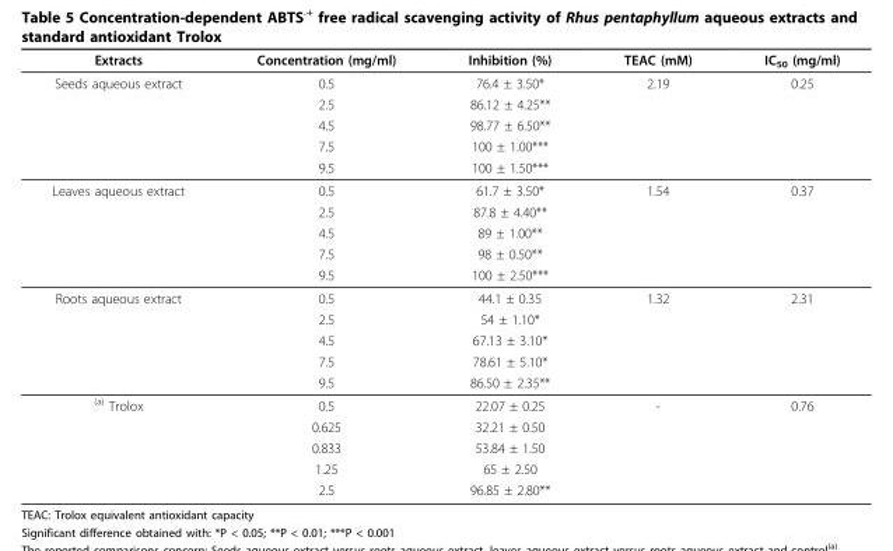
<table><thead><tr><td>Extracts</td><td>Concentration (mg/ml)</td><td>Inhibition (%)</td><td>TEAC (mM)</td><td>IC<sub>50</sub> (mg/ml)</td></tr></thead><tbody><tr><td rowspan="5">Seeds aqueous extract</td><td>0.5</td><td>76.4 ± 3.50*</td><td>2.19</td><td>0.25</td></tr><tr><td>2.5</td><td>86.12 ± 4.25**</td><td></td><td></td></tr><tr><td>4.5</td><td>98.77 ± 6.50**</td><td></td><td></td></tr><tr><td>7.5</td><td>100 ± 1.00***</td><td></td><td></td></tr><tr><td>9.5</td><td>100 ± 1.50***</td><td></td><td></td></tr><tr><td rowspan="5">Leaves aqueous extract</td><td>0.5</td><td>61.7 ± 3.50*</td><td>1.54</td><td>0.37</td></tr><tr><td>2.5</td><td>87.8 ± 4.40**</td><td></td><td></td></tr><tr><td>4.5</td><td>89 ± 1.00**</td><td></td><td></td></tr><tr><td>7.5</td><td>98 ± 0.50**</td><td></td><td></td></tr><tr><td>9.5</td><td>100 ± 2.50***</td><td></td><td></td></tr><tr><td rowspan="5">Roots aqueous extract</td><td>0.5</td><td>44.1 ± 0.35</td><td>1.32</td><td>2.31</td></tr><tr><td>2.5</td><td>54 ± 1.10*</td><td></td><td></td></tr><tr><td>4.5</td><td>67.13 ± 3.10*</td><td></td><td></td></tr><tr><td>7.5</td><td>78.61 ± 5.10*</td><td></td><td></td></tr><tr><td>9.5</td><td>86.50 ± 2.35**</td><td></td><td></td></tr><tr><td rowspan="5"><sup>(a)</sup> Trolox</td><td>0.5</td><td>22.07 ± 0.25</td><td>-</td><td>0.76</td></tr><tr><td>0.625</td><td>32.21 ± 0.50</td><td></td><td></td></tr><tr><td>0.833</td><td>53.84 ± 1.50</td><td></td><td></td></tr><tr><td>1.25</td><td>65 ± 2.50</td><td></td><td></td></tr><tr><td>2.5</td><td>96.85 ± 2.80**</td><td></td><td></td></tr></tbody></table>